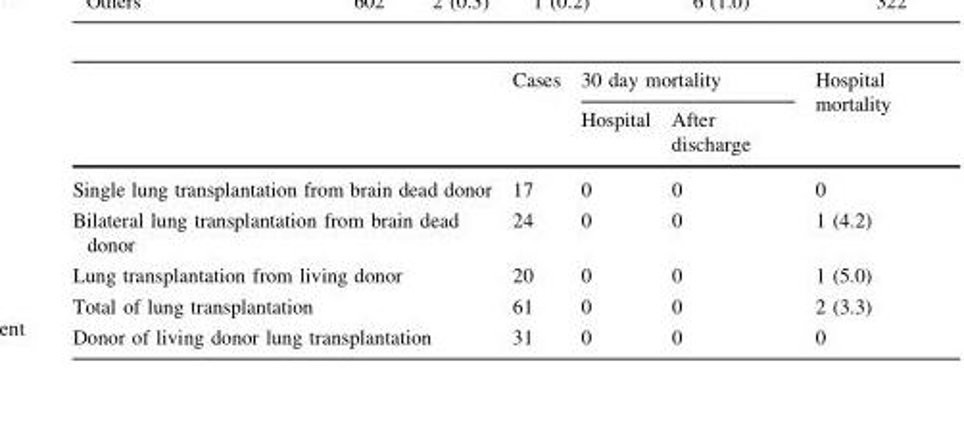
<table><thead><tr><td rowspan="2"></td><td rowspan="2">Cases</td><td colspan="2">30 day mortality</td><td rowspan="2">Hospital mortality</td></tr><tr><td>Hospital</td><td>After discharge</td></tr></thead><tbody><tr><td>Single lung transplantation from brain dead donor</td><td>17</td><td>0</td><td>0</td><td>0</td></tr><tr><td>Bilateral lung transplantation from brain dead donor</td><td>24</td><td>0</td><td>0</td><td>1 (4.2)</td></tr><tr><td>Lung transplantation from living donor</td><td>20</td><td>0</td><td>0</td><td>1 (5.0)</td></tr><tr><td>Total of lung transplantation</td><td>61</td><td>0</td><td>0</td><td>2 (3.3)</td></tr><tr><td>Donor of living donor lung transplantation</td><td>31</td><td>0</td><td>0</td><td>0</td></tr></tbody></table>